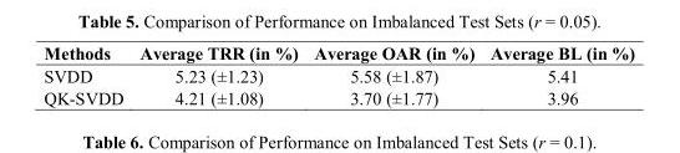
<table><thead><tr><td>Methods</td><td>Average TRR (in %)</td><td>Average OAR (in %)</td><td>Average BL (in %)</td></tr></thead><tbody><tr><td>SVDD</td><td>5.23 (±1.23)</td><td>5.58 (±1.87)</td><td>5.41</td></tr><tr><td>QK-SVDD</td><td>4.21 (±1.08)</td><td>3.70 (±1.77)</td><td>3.96</td></tr></tbody></table>